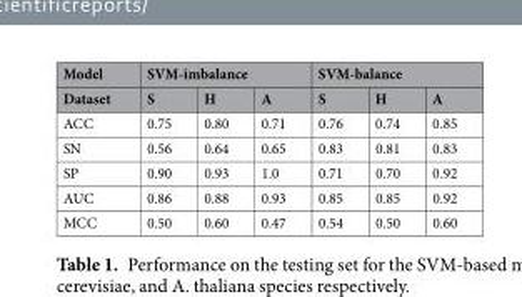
<table><thead><tr><td rowspan="2">Model Dataset</td><td colspan="3">SVM-imbalance</td><td colspan="3">SVM-balance</td></tr><tr><td>S</td><td>H</td><td>A</td><td>S</td><td>H</td><td>A</td></tr></thead><tbody><tr><td>ACC</td><td>0.75</td><td>0.80</td><td>0.71</td><td>0.76</td><td>0.74</td><td>0.85</td></tr><tr><td>SN</td><td>0.56</td><td>0.64</td><td>0.65</td><td>0.83</td><td>0.81</td><td>0.83</td></tr><tr><td>SP</td><td>0.90</td><td>0.93</td><td>1.0</td><td>0.71</td><td>0.70</td><td>0.92</td></tr><tr><td>AUC</td><td>0.86</td><td>0.88</td><td>0.93</td><td>0.85</td><td>0.85</td><td>0.92</td></tr><tr><td>MCC</td><td>0.50</td><td>0.60</td><td>0.47</td><td>0.54</td><td>0.50</td><td>0.60</td></tr></tbody></table>